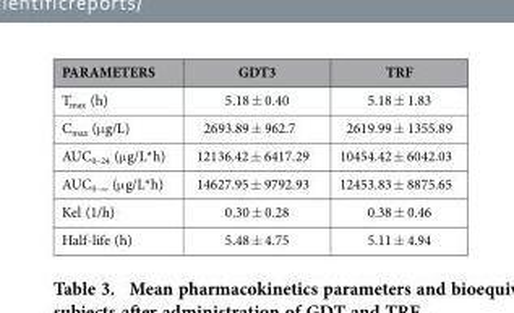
<table><thead><tr><td>PARAMETERS</td><td>GDT3</td><td>TRF</td></tr></thead><tbody><tr><td>T<sub>max</sub> (h)</td><td>5.18 ± 0.40</td><td>5.18 ± 1.83</td></tr><tr><td>C<sub>max</sub> (μ g/L)</td><td>2693.89 ± 962.7</td><td>2619.99 ± 1355.89</td></tr><tr><td>AUC<sub>0–24</sub> (μ g/L*h)</td><td>12136.42 ± 6417.29</td><td>10454.42 ± 6042.03</td></tr><tr><td>AUC<sub>0–∞</sub> (μ g/L*h)</td><td>14627.95 ± 9792.93</td><td>12453.83 ± 8875.65</td></tr><tr><td>Kel (1/h)</td><td>0.30 ± 0.28</td><td>0.38 ± 0.46</td></tr><tr><td>Half-life (h)</td><td>5.48 ± 4.75</td><td>5.11 ± 4.94</td></tr></tbody></table>